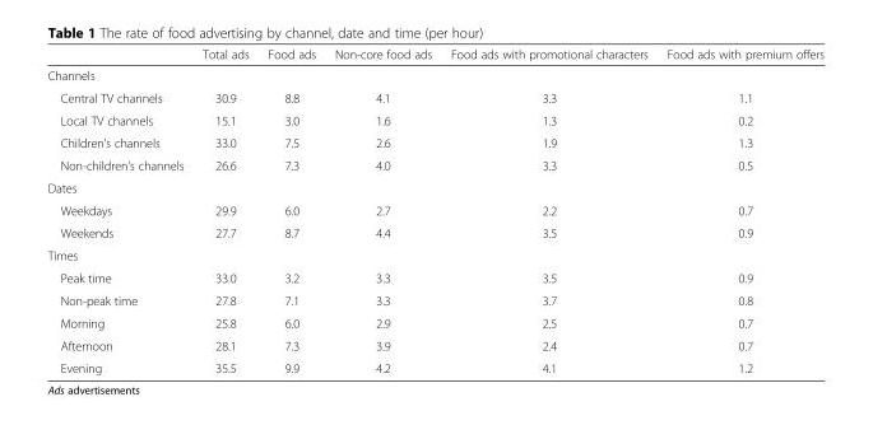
<table><thead><tr><td></td><td>Total ads</td><td>Food ads</td><td>Non-core food ads</td><td>Food ads with promotional characters</td><td>Food ads with premium offers</td></tr></thead><tbody><tr><td colspan="6">Channels</td></tr><tr><td>Central TV channels</td><td>30.9</td><td>8.8</td><td>4.1</td><td>3.3</td><td>1.1</td></tr><tr><td>Local TV channels</td><td>15.1</td><td>3.0</td><td>1.6</td><td>1.3</td><td>0.2</td></tr><tr><td>Children’s channels</td><td>33.0</td><td>7.5</td><td>2.6</td><td>1.9</td><td>1.3</td></tr><tr><td>Non-children’s channels</td><td>26.6</td><td>7.3</td><td>4.0</td><td>3.3</td><td>0.5</td></tr><tr><td colspan="6">Dates</td></tr><tr><td>Weekdays</td><td>29.9</td><td>6.0</td><td>2.7</td><td>2.2</td><td>0.7</td></tr><tr><td>Weekends</td><td>27.7</td><td>8.7</td><td>4.4</td><td>3.5</td><td>0.9</td></tr><tr><td colspan="6">Times</td></tr><tr><td>Peak time</td><td>33.0</td><td>3.2</td><td>3.3</td><td>3.5</td><td>0.9</td></tr><tr><td>Non-peak time</td><td>27.8</td><td>7.1</td><td>3.3</td><td>3.7</td><td>0.8</td></tr><tr><td>Morning</td><td>25.8</td><td>6.0</td><td>2.9</td><td>2.5</td><td>0.7</td></tr><tr><td>Afternoon</td><td>28.1</td><td>7.3</td><td>3.9</td><td>2.4</td><td>0.7</td></tr><tr><td>Evening</td><td>35.5</td><td>9.9</td><td>4.2</td><td>4.1</td><td>1.2</td></tr></tbody></table>